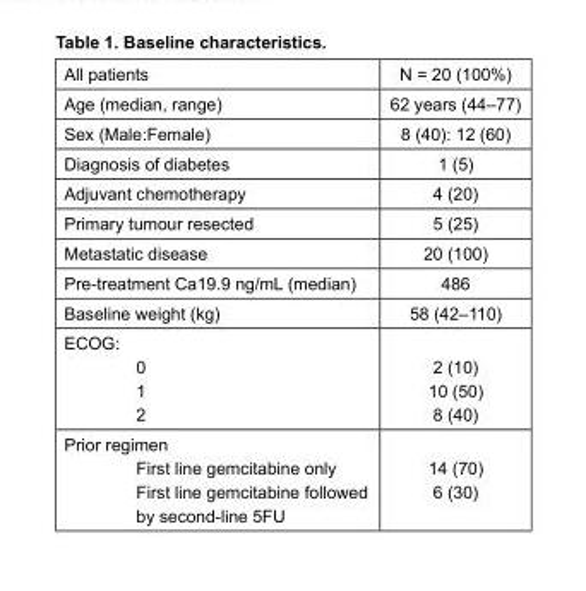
<table><tbody><tr><td>All patients</td><td>N = 20 (100%)</td></tr><tr><td>Age (median, range)</td><td>62 years (44–77)</td></tr><tr><td>Sex (Male:Female)</td><td>8 (40): 12 (60)</td></tr><tr><td>Diagnosis of diabetes</td><td>1 (5)</td></tr><tr><td>Adjuvant chemotherapy</td><td>4 (20)</td></tr><tr><td>Primary tumour resected</td><td>5 (25)</td></tr><tr><td>Metastatic disease</td><td>20 (100)</td></tr><tr><td>Pre-treatment Ca19.9 ng/mL (median)</td><td>486</td></tr><tr><td>Baseline weight (kg)</td><td>58 (42–110)</td></tr><tr><td>ECOG: 0 1 2</td><td>2 (10) 10 (50) 8 (40)</td></tr><tr><td>Prior regimen First line gemcitabine only First line gemcitabine followed by second-line 5FU</td><td>14 (70) 6 (30)</td></tr></tbody></table>